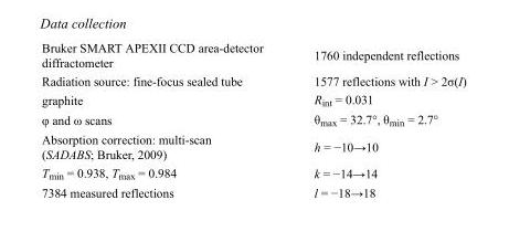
<table><tbody><tr><td>Bruker SMART APEXII CCD area-detector diffractometer</td><td>1760 independent reflections</td></tr><tr><td>Radiation source: fine-focus sealed tube</td><td>1577 reflections with I &gt; 2σ(I)</td></tr><tr><td>graphite</td><td>R<sub>int</sub> = 0.031</td></tr><tr><td>φ and ω scans</td><td>θ<sub>max</sub> = 32.7°, θ<sub>min</sub> = 2.7°</td></tr><tr><td>Absorption correction: multi-scan (SADABS; Bruker, 2009)</td><td>h = −10→10</td></tr><tr><td>T<sub>min</sub> = 0.938, T<sub>max</sub> = 0.984</td><td>k = −14→14</td></tr><tr><td>7384 measured reflections</td><td>l = −18→18</td></tr></tbody></table>